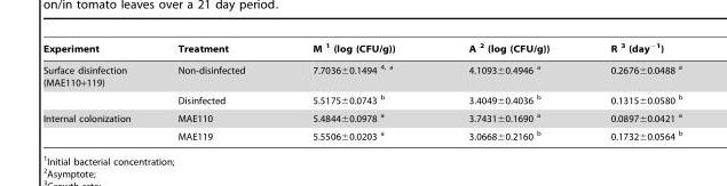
<table><thead><tr><td>Experiment</td><td>Treatment</td><td>M 1 (log (CFU/g))</td><td>A 2 (log (CFU/g))</td><td>R 3 (day<sup>−1</sup>)</td></tr></thead><tbody><tr><td rowspan="2">Surface disinfection (MAE110+119)</td><td>Non-disinfected</td><td>7.7036±0.1494 4, a</td><td>4.1093±0.4946 <sup>a</sup></td><td>0.2676±0.0488 <sup>a</sup></td></tr><tr><td>Disinfected</td><td>5.5175±0.0743 <sup>b</sup></td><td>3.4049±0.4036 <sup>b</sup></td><td>0.1315±0.0580 <sup>b</sup></td></tr><tr><td rowspan="2">Internal colonization</td><td>MAE110</td><td>5.4844±0.0978 <sup>a</sup></td><td>3.7431±0.1690 <sup>a</sup></td><td>0.0897±0.0421 <sup>a</sup></td></tr><tr><td>MAE119</td><td>5.5506±0.0203 <sup>a</sup></td><td>3.0668±0.2160 <sup>b</sup></td><td>0.1732±0.0564 <sup>b</sup></td></tr></tbody></table>